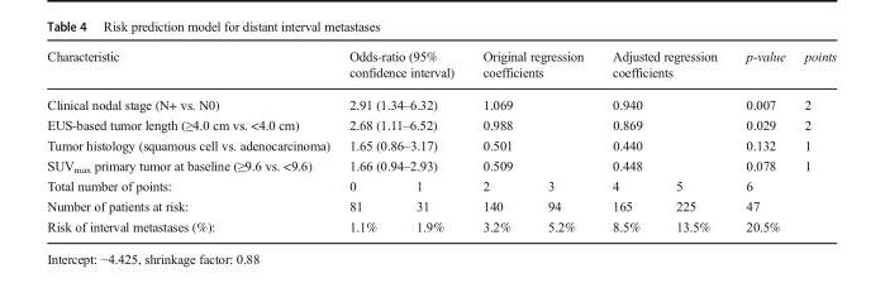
<table><thead><tr><td>Characteristic</td><td colspan="2">Odds-ratio (95% confidence interval)</td><td colspan="2">Original regression coefficients</td><td colspan="2">Adjusted regression coefficients</td><td>p-value</td><td>points</td></tr></thead><tbody><tr><td>Clinical nodal stage (N+ vs. N0)</td><td colspan="2">2.91 (1.34–6.32)</td><td colspan="2">1.069</td><td colspan="2">0.940</td><td>0.007</td><td>2</td></tr><tr><td>EUS-based tumor length (≥4.0 cm vs. &lt;4.0 cm)</td><td colspan="2">2.68 (1.11–6.52)</td><td colspan="2">0.988</td><td colspan="2">0.869</td><td>0.029</td><td>2</td></tr><tr><td>Tumor histology (squamous cell vs. adenocarcinoma)</td><td colspan="2">1.65 (0.86–3.17)</td><td colspan="2">0.501</td><td colspan="2">0.440</td><td>0.132</td><td>1</td></tr><tr><td>SUV<sub>max</sub> primary tumor at baseline (≥9.6 vs. &lt;9.6)</td><td colspan="2">1.66 (0.94–2.93)</td><td colspan="2">0.509</td><td colspan="2">0.448</td><td>0.078</td><td>1</td></tr><tr><td>Total number of points:</td><td>0</td><td>1</td><td>2</td><td>3</td><td>4</td><td>5</td><td>6</td><td></td></tr><tr><td>Number of patients at risk:</td><td>81</td><td>31</td><td>140</td><td>94</td><td>165</td><td>225</td><td>47</td><td></td></tr><tr><td>Risk of interval metastases (%):</td><td>1.1%</td><td>1.9%</td><td>3.2%</td><td>5.2%</td><td>8.5%</td><td>13.5%</td><td>20.5%</td><td></td></tr></tbody></table>